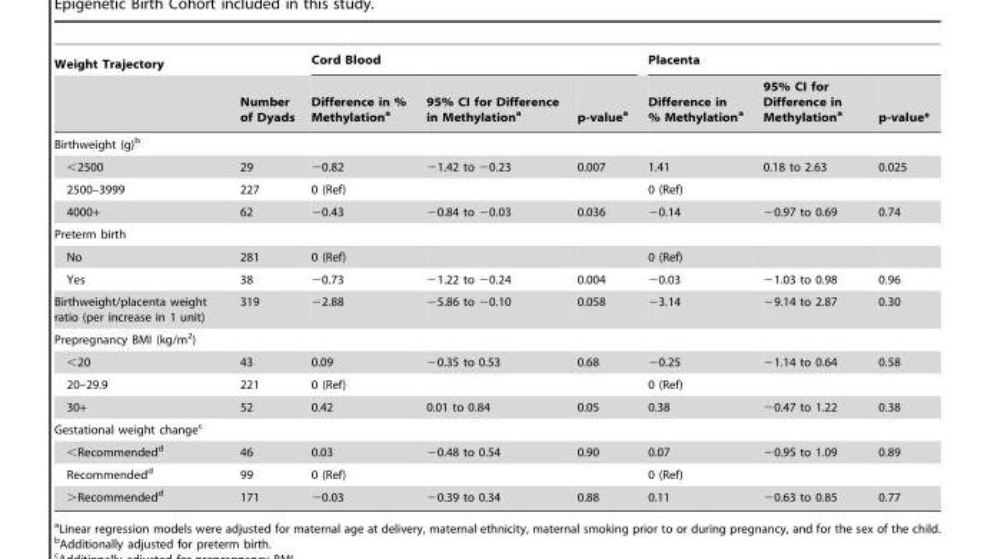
<table><thead><tr><td rowspan="2">Weight Trajectory</td><td rowspan="2">Number of Dyads</td><td colspan="3">Cord Blood</td><td colspan="3">Placenta</td></tr><tr><td>Difference in % Methylation<sup>a</sup></td><td>95% CI for Difference in Methylation<sup>a</sup></td><td>p-value<sup>a</sup></td><td>Difference in % Methylation<sup>a</sup></td><td>95% CI for Difference in Methylation<sup>a</sup></td><td>p-value*</td></tr></thead><tbody><tr><td colspan="8">Birthweight (g)<sup>b</sup></td></tr><tr><td>&lt;2500</td><td>29</td><td>−0.82</td><td>−1.42 to −0.23</td><td>0.007</td><td>1.41</td><td>0.18 to 2.63</td><td>0.025</td></tr><tr><td>2500–3999</td><td>227</td><td>0 (Ref)</td><td></td><td></td><td>0 (Ref)</td><td></td><td></td></tr><tr><td>4000+</td><td>62</td><td>−0.43</td><td>−0.84 to −0.03</td><td>0.036</td><td>−0.14</td><td>−0.97 to 0.69</td><td>0.74</td></tr><tr><td colspan="8">Preterm birth</td></tr><tr><td>No</td><td>281</td><td>0 (Ref)</td><td></td><td></td><td>0 (Ref)</td><td></td><td></td></tr><tr><td>Yes</td><td>38</td><td>−0.73</td><td>−1.22 to −0.24</td><td>0.004</td><td>−0.03</td><td>−1.03 to 0.98</td><td>0.96</td></tr><tr><td>Birthweight/placenta weight ratio (per increase in 1 unit)</td><td>319</td><td>−2.88</td><td>−5.86 to −0.10</td><td>0.058</td><td>−3.14</td><td>−9.14 to 2.87</td><td>0.30</td></tr><tr><td colspan="8">Prepregnancy BMI (kg/m<sup>2</sup>)</td></tr><tr><td>&lt;20</td><td>43</td><td>0.09</td><td>−0.35 to 0.53</td><td>0.68</td><td>−0.25</td><td>−1.14 to 0.64</td><td>0.58</td></tr><tr><td>20–29.9</td><td>221</td><td>0 (Ref)</td><td></td><td></td><td>0 (Ref)</td><td></td><td></td></tr><tr><td>30+</td><td>52</td><td>0.42</td><td>0.01 to 0.84</td><td>0.05</td><td>0.38</td><td>−0.47 to 1.22</td><td>0.38</td></tr><tr><td colspan="8">Gestational weight change<sup>c</sup></td></tr><tr><td>&lt;Recommended<sup>d</sup></td><td>46</td><td>0.03</td><td>−0.48 to 0.54</td><td>0.90</td><td>0.07</td><td>−0.95 to 1.09</td><td>0.89</td></tr><tr><td>Recommended<sup>d</sup></td><td>99</td><td>0 (Ref)</td><td></td><td></td><td>0 (Ref)</td><td></td><td></td></tr><tr><td>&gt;Recommended<sup>d</sup></td><td>171</td><td>−0.03</td><td>−0.39 to 0.34</td><td>0.88</td><td>0.11</td><td>−0.63 to 0.85</td><td>0.77</td></tr></tbody></table>